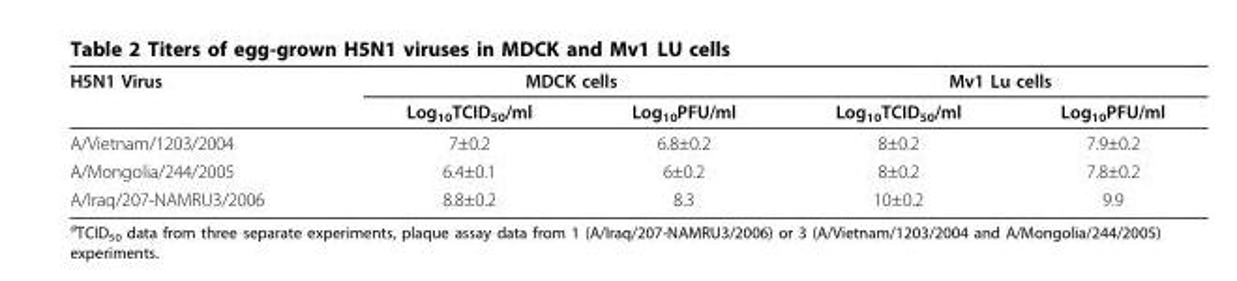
<table><thead><tr><td rowspan="2">H5N1 Virus</td><td colspan="2">MDCK cells</td><td colspan="2">Mv1 Lu cells</td></tr><tr><td>Log<sub>10</sub>TCID<sub>50</sub>/ml</td><td>Log<sub>10</sub>PFU/ml</td><td>Log<sub>10</sub>TCID<sub>50</sub>/ml</td><td>Log<sub>10</sub>PFU/ml</td></tr></thead><tbody><tr><td>A/Vietnam/1203/2004</td><td>7±0.2</td><td>6.8±0.2</td><td>8±0.2</td><td>7.9±0.2</td></tr><tr><td>A/Mongolia/244/2005</td><td>6.4±0.1</td><td>6±0.2</td><td>8±0.2</td><td>7.8±0.2</td></tr><tr><td>A/Iraq/207-NAMRU3/2006</td><td>8.8±0.2</td><td>8.3</td><td>10±0.2</td><td>9.9</td></tr></tbody></table>